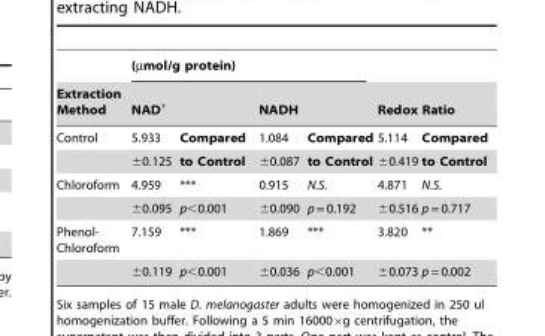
<table><thead><tr><td rowspan="3">Extraction Method Control</td><td colspan="4">(µmol/g protein)</td><td></td><td></td></tr><tr><td colspan="2">NAD<sup>+</sup></td><td colspan="2">NADH</td><td colspan="2">Redox Ratio</td></tr><tr><td>5.933</td><td>Compared</td><td>1.084</td><td>Compared</td><td>5.114</td><td>Compared</td></tr></thead><tbody><tr><td></td><td>±0.125</td><td>to Control</td><td>±0.087</td><td>to Control</td><td>±0.419</td><td>to Control</td></tr><tr><td rowspan="2">Chloroform</td><td>4.959</td><td>***</td><td>0.915</td><td>N.S.</td><td>4.871</td><td>N.S.</td></tr><tr><td>±0.095</td><td>p&lt;0.001</td><td>±0.090</td><td>p = 0.192</td><td>±0.516</td><td>p = 0.717</td></tr><tr><td rowspan="2">Phenol- Chloroform</td><td>7.159</td><td>***</td><td>1.869</td><td>***</td><td>3.820</td><td>**</td></tr><tr><td>±0.119</td><td>p&lt;0.001</td><td>±0.036</td><td>p&lt;0.001</td><td>±0.073</td><td>p = 0.002</td></tr></tbody></table>